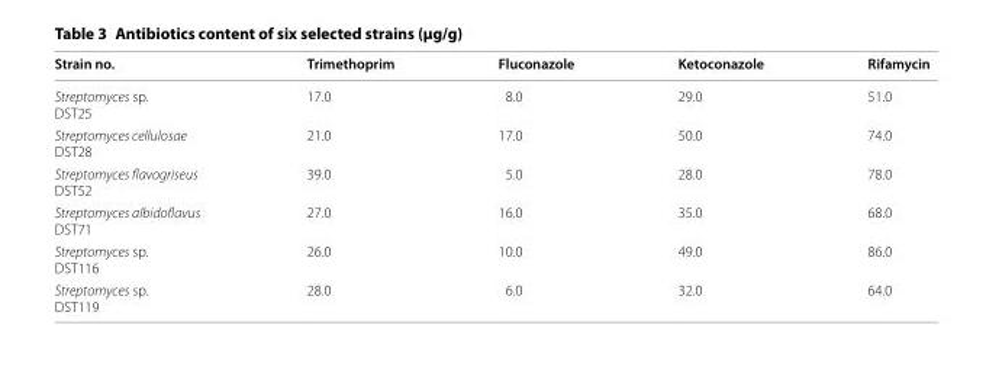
<table><thead><tr><td>Strain no.</td><td>Trimethoprim</td><td>Fluconazole</td><td>Ketoconazole</td><td>Rifamycin</td></tr></thead><tbody><tr><td>Streptomyces sp. DST25</td><td>17.0</td><td>8.0</td><td>29.0</td><td>51.0</td></tr><tr><td>Streptomyces cellulosae DST28</td><td>21.0</td><td>17.0</td><td>50.0</td><td>74.0</td></tr><tr><td>Streptomyces flavogriseus DST52</td><td>39.0</td><td>5.0</td><td>28.0</td><td>78.0</td></tr><tr><td>Streptomyces albidoflavus DST71</td><td>27.0</td><td>16.0</td><td>35.0</td><td>68.0</td></tr><tr><td>Streptomyces sp. DST116</td><td>26.0</td><td>10.0</td><td>49.0</td><td>86.0</td></tr><tr><td>Streptomyces sp. DST119</td><td>28.0</td><td>6.0</td><td>32.0</td><td>64.0</td></tr></tbody></table>